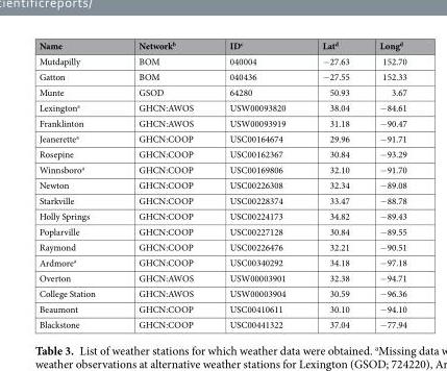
<table><thead><tr><td>Name</td><td>Network<sup>b</sup></td><td>ID<sup>c</sup></td><td>Lat<sup>d</sup></td><td>Long<sup>d</sup></td></tr></thead><tbody><tr><td>Mutdapilly</td><td>BOM</td><td>040004</td><td>−27.63</td><td>152.70</td></tr><tr><td>Gatton</td><td>BOM</td><td>040436</td><td>−27.55</td><td>152.33</td></tr><tr><td>Munte</td><td>GSOD</td><td>64280</td><td>50.93</td><td>3.67</td></tr><tr><td>Lexington<sup>a</sup></td><td>GHCN:AWOS</td><td>USW00093820</td><td>38.04</td><td>−84.61</td></tr><tr><td>Franklinton</td><td>GHCN:AWOS</td><td>USW00093919</td><td>31.18</td><td>−90.47</td></tr><tr><td>Jeanerette<sup>a</sup></td><td>GHCN:COOP</td><td>USC00164674</td><td>29.96</td><td>−91.71</td></tr><tr><td>Rosepine</td><td>GHCN:COOP</td><td>USC00162367</td><td>30.84</td><td>−93.29</td></tr><tr><td>Winnsboro<sup>a</sup></td><td>GHCN:COOP</td><td>USC00169806</td><td>32.10</td><td>−91.70</td></tr><tr><td>Newton</td><td>GHCN:COOP</td><td>USC00226308</td><td>32.34</td><td>−89.08</td></tr><tr><td>Starkville</td><td>GHCN:COOP</td><td>USC00228374</td><td>33.47</td><td>−88.78</td></tr><tr><td>Holly Springs</td><td>GHCN:COOP</td><td>USC00224173</td><td>34.82</td><td>−89.43</td></tr><tr><td>Poplarville</td><td>GHCN:COOP</td><td>USC00227128</td><td>30.84</td><td>−89.55</td></tr><tr><td>Raymond</td><td>GHCN:COOP</td><td>USC00226476</td><td>32.21</td><td>−90.51</td></tr><tr><td>Ardmore<sup>a</sup></td><td>GHCN:COOP</td><td>USC00340292</td><td>34.18</td><td>−97.18</td></tr><tr><td>Overton</td><td>GHCN:AWOS</td><td>USW00003901</td><td>32.38</td><td>−94.71</td></tr><tr><td>College Station</td><td>GHCN:AWOS</td><td>USW00003904</td><td>30.59</td><td>−96.36</td></tr><tr><td>Beaumont</td><td>GHCN:COOP</td><td>USC00410611</td><td>30.10</td><td>−94.10</td></tr><tr><td>Blackstone</td><td>GHCN:COOP</td><td>USC00441322</td><td>37.04</td><td>−77.94</td></tr></tbody></table>